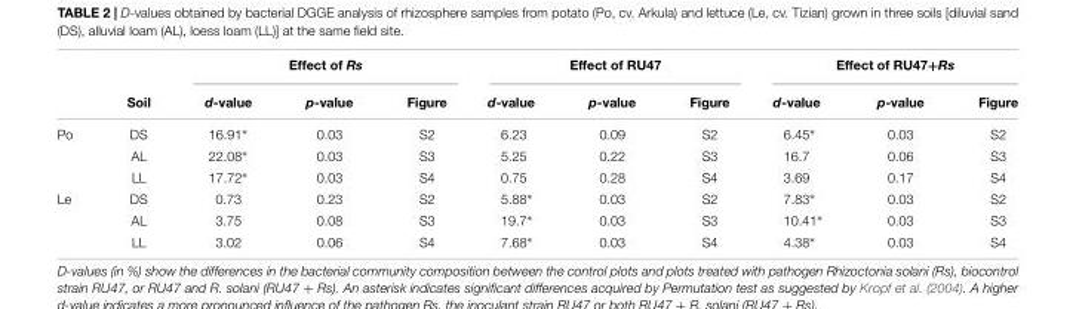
<table><thead><tr><td rowspan="2"></td><td rowspan="2">Soil</td><td colspan="3">Effect of Rs</td><td colspan="3">Effect of RU47</td><td colspan="3">Effect of RU47+Rs</td></tr><tr><td>d-value</td><td>p-value</td><td>Figure</td><td>d-value</td><td>p-value</td><td>Figure</td><td>d-value</td><td>p-value</td><td>Figure</td></tr></thead><tbody><tr><td rowspan="3">Po</td><td>DS</td><td>16.91∗</td><td>0.03</td><td>S2</td><td>6.23</td><td>0.09</td><td>S2</td><td>6.45∗</td><td>0.03</td><td>S2</td></tr><tr><td>AL</td><td>22.08∗</td><td>0.03</td><td>S3</td><td>5.25</td><td>0.22</td><td>S3</td><td>16.7</td><td>0.06</td><td>S3</td></tr><tr><td>LL</td><td>17.72∗</td><td>0.03</td><td>S4</td><td>0.75</td><td>0.28</td><td>S4</td><td>3.69</td><td>0.17</td><td>S4</td></tr><tr><td rowspan="3">Le</td><td>DS</td><td>0.73</td><td>0.23</td><td>S2</td><td>5.88∗</td><td>0.03</td><td>S2</td><td>7.83∗</td><td>0.03</td><td>S2</td></tr><tr><td>AL</td><td>3.75</td><td>0.08</td><td>S3</td><td>19.7∗</td><td>0.03</td><td>S3</td><td>10.41∗</td><td>0.03</td><td>S3</td></tr><tr><td>LL</td><td>3.02</td><td>0.06</td><td>S4</td><td>7.68∗</td><td>0.03</td><td>S4</td><td>4.38∗</td><td>0.03</td><td>S4</td></tr></tbody></table>